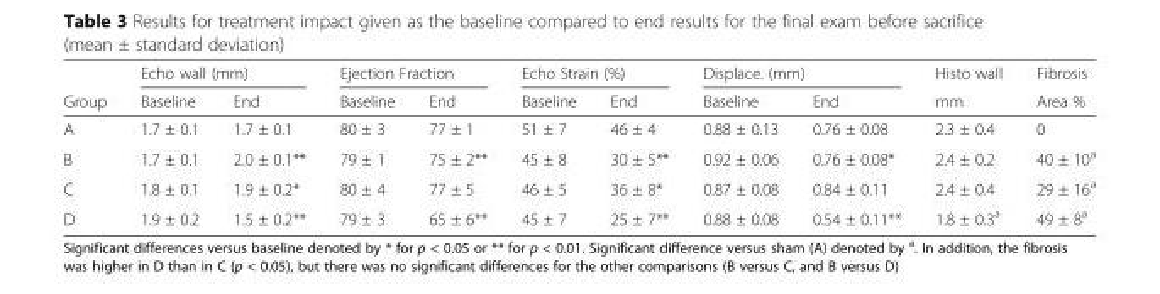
<table><thead><tr><td rowspan="2">Group</td><td colspan="2">Echo wall (mm)</td><td colspan="2">Ejection Fraction</td><td colspan="2">Echo Strain (%)</td><td colspan="2">Displace. (mm)</td><td rowspan="2">Histo wall mm</td><td rowspan="2">Fibrosis Area %</td></tr><tr><td>Baseline</td><td>End</td><td>Baseline</td><td>End</td><td>Baseline</td><td>End</td><td>Baseline</td><td>End</td></tr></thead><tbody><tr><td>A</td><td>1.7 ± 0.1</td><td>1.7 ± 0.1</td><td>80 ± 3</td><td>77 ± 1</td><td>51 ± 7</td><td>46 ± 4</td><td>0.88 ± 0.13</td><td>0.76 ± 0.08</td><td>2.3 ± 0.4</td><td>0</td></tr><tr><td>B</td><td>1.7 ± 0.1</td><td>2.0 ± 0.1**</td><td>79 ± 1</td><td>75 ± 2**</td><td>45 ± 8</td><td>30 ± 5**</td><td>0.92 ± 0.06</td><td>0.76 ± 0.08*</td><td>2.4 ± 0.2</td><td>40 ± 10<sup>a</sup></td></tr><tr><td>C</td><td>1.8 ± 0.1</td><td>1.9 ± 0.2*</td><td>80 ± 4</td><td>77 ± 5</td><td>46 ± 5</td><td>36 ± 8*</td><td>0.87 ± 0.08</td><td>0.84 ± 0.11</td><td>2.4 ± 0.4</td><td>29 ± 16<sup>a</sup></td></tr><tr><td>D</td><td>1.9 ± 0.2</td><td>1.5 ± 0.2**</td><td>79 ± 3</td><td>65 ± 6**</td><td>45 ± 7</td><td>25 ± 7**</td><td>0.88 ± 0.08</td><td>0.54 ± 0.11**</td><td>1.8 ± 0.3<sup>a</sup></td><td>49 ± 8<sup>a</sup></td></tr></tbody></table>